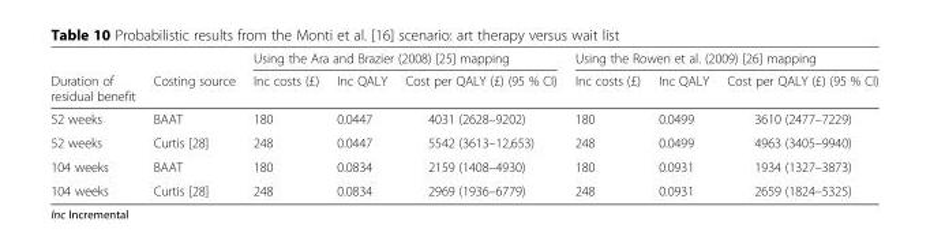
<table><thead><tr><td rowspan="2">Duration of residual benefit</td><td rowspan="2">Costing source</td><td colspan="3">Using the Ara and Brazier (2008) [25] mapping</td><td colspan="3">Using the Rowen et al. (2009) [26] mapping</td></tr><tr><td>Inc costs (£)</td><td>Inc QALY</td><td>Cost per QALY (£) (95 % CI)</td><td>Inc costs (£)</td><td>Inc QALY</td><td>Cost per QALY (£) (95 % CI)</td></tr></thead><tbody><tr><td>52 weeks</td><td>BAAT</td><td>180</td><td>0.0447</td><td>4031 (2628–9202)</td><td>180</td><td>0.0499</td><td>3610 (2477–7229)</td></tr><tr><td>52 weeks</td><td>Curtis [28]</td><td>248</td><td>0.0447</td><td>5542 (3613–12,653)</td><td>248</td><td>0.0499</td><td>4963 (3405–9940)</td></tr><tr><td>104 weeks</td><td>BAAT</td><td>180</td><td>0.0834</td><td>2159 (1408–4930)</td><td>180</td><td>0.0931</td><td>1934 (1327–3873)</td></tr><tr><td>104 weeks</td><td>Curtis [28]</td><td>248</td><td>0.0834</td><td>2969 (1936–6779)</td><td>248</td><td>0.0931</td><td>2659 (1824–5325)</td></tr></tbody></table>